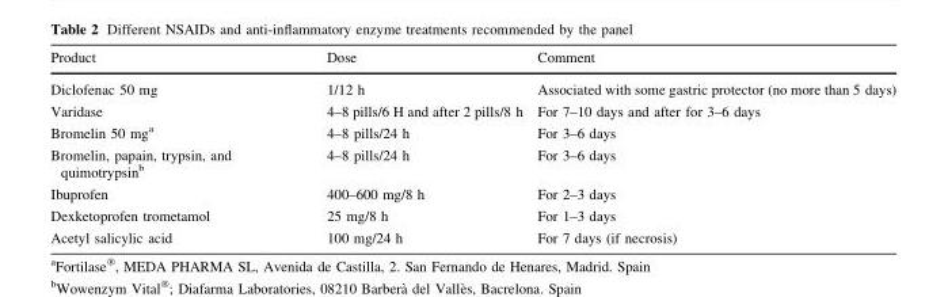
<table><thead><tr><td>Product</td><td>Dose</td><td>Comment</td></tr></thead><tbody><tr><td>Diclofenac 50 mg</td><td>1/12 h</td><td>Associated with some gastric protector (no more than 5 days)</td></tr><tr><td>Varidase</td><td>4–8 pills/6 H and after 2 pills/8 h</td><td>For 7–10 days and after for 3–6 days</td></tr><tr><td>Bromelin 50 mg<sup>a</sup></td><td>4–8 pills/24 h</td><td>For 3–6 days</td></tr><tr><td>Bromelin, papain, trypsin, and quimotrypsin<sup>b</sup></td><td>4–8 pills/24 h</td><td>For 3–6 days</td></tr><tr><td>Ibuprofen</td><td>400–600 mg/8 h</td><td>For 2–3 days</td></tr><tr><td>Dexketoprofen trometamol</td><td>25 mg/8 h</td><td>For 1–3 days</td></tr><tr><td>Acetyl salicylic acid</td><td>100 mg/24 h</td><td>For 7 days (if necrosis)</td></tr></tbody></table>